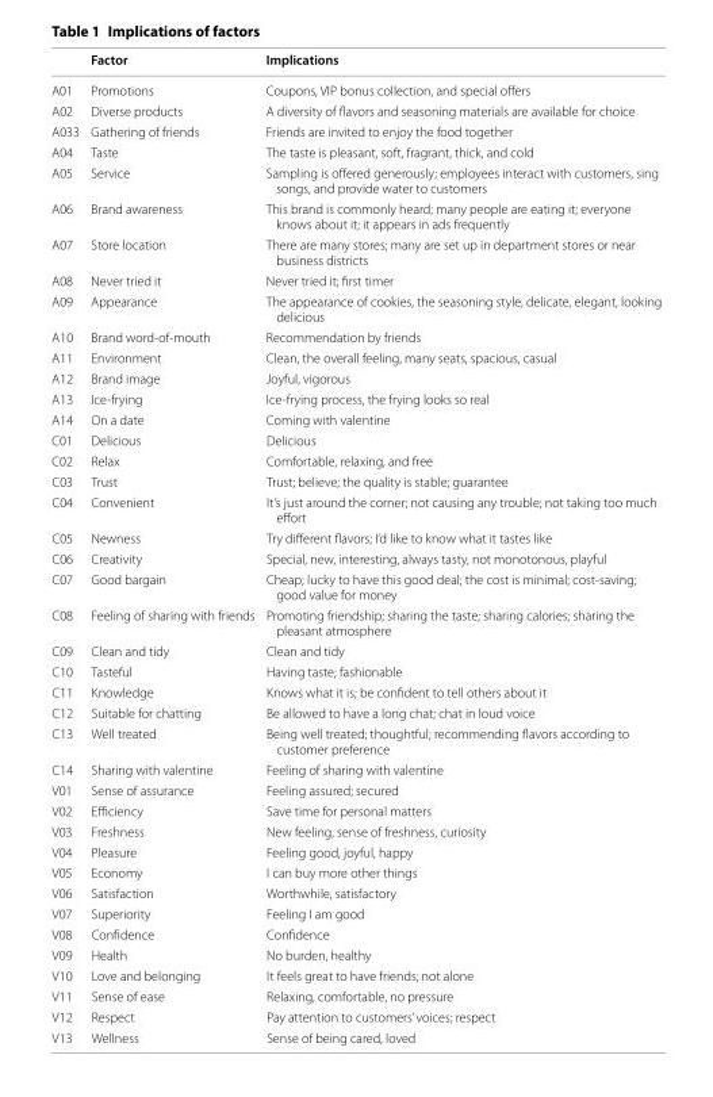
<table><thead><tr><td></td><td>Factor</td><td>Implications</td></tr></thead><tbody><tr><td>A01</td><td>Promotions</td><td>Coupons, VIP bonus collection, and special offers</td></tr><tr><td>A02</td><td>Diverse products</td><td>A diversity of flavors and seasoning materials are available for choice</td></tr><tr><td>A033</td><td>Gathering of friends</td><td>Friends are invited to enjoy the food together</td></tr><tr><td>A04</td><td>Taste</td><td>The taste is pleasant, soft, fragrant, thick, and cold</td></tr><tr><td>A05</td><td>Service</td><td>Sampling is offered generously; employees interact with customers, sing songs, and provide water to customers</td></tr><tr><td>A06</td><td>Brand awareness</td><td>This brand is commonly heard; many people are eating it; everyone knows about it; it appears in ads frequently</td></tr><tr><td>A07</td><td>Store location</td><td>There are many stores; many are set up in department stores or near business districts</td></tr><tr><td>A08</td><td>Never tried it</td><td>Never tried it; first timer</td></tr><tr><td>A09</td><td>Appearance</td><td>The appearance of cookies, the seasoning style, delicate, elegant, looking delicious</td></tr><tr><td>A10</td><td>Brand word‑of‑mouth</td><td>Recommendation by friends</td></tr><tr><td>A11</td><td>Environment</td><td>Clean, the overall feeling, many seats, spacious, casual</td></tr><tr><td>A12</td><td>Brand image</td><td>Joyful, vigorous</td></tr><tr><td>A13</td><td>Ice‑frying</td><td>Ice‑frying process, the frying looks so real</td></tr><tr><td>A14</td><td>On a date</td><td>Coming with valentine</td></tr><tr><td>C01</td><td>Delicious</td><td>Delicious</td></tr><tr><td>C02</td><td>Relax</td><td>Comfortable, relaxing, and free</td></tr><tr><td>C03</td><td>Trust</td><td>Trust; believe; the quality is stable; guarantee</td></tr><tr><td>C04</td><td>Convenient</td><td>It’s just around the corner; not causing any trouble; not taking too much effort</td></tr><tr><td>C05</td><td>Newness</td><td>Try different flavors; I’d like to know what it tastes like</td></tr><tr><td>C06</td><td>Creativity</td><td>Special, new, interesting, always tasty, not monotonous, playful</td></tr><tr><td>C07</td><td>Good bargain</td><td>Cheap; lucky to have this good deal; the cost is minimal; cost‑saving; good value for money</td></tr><tr><td>C08</td><td>Feeling of sharing with friends</td><td>Promoting friendship; sharing the taste; sharing calories; sharing the pleasant atmosphere</td></tr><tr><td>C09</td><td>Clean and tidy</td><td>Clean and tidy</td></tr><tr><td>C10</td><td>Tasteful</td><td>Having taste; fashionable</td></tr><tr><td>C11</td><td>Knowledge</td><td>Knows what it is; be confident to tell others about it</td></tr><tr><td>C12</td><td>Suitable for chatting</td><td>Be allowed to have a long chat; chat in loud voice</td></tr><tr><td>C13</td><td>Well treated</td><td>Being well treated; thoughtful; recommending flavors according to customer preference</td></tr><tr><td>C14</td><td>Sharing with valentine</td><td>Feeling of sharing with valentine</td></tr><tr><td>V01</td><td>Sense of assurance</td><td>Feeling assured; secured</td></tr><tr><td>V02</td><td>Efficiency</td><td>Save time for personal matters</td></tr><tr><td>V03</td><td>Freshness</td><td>New feeling, sense of freshness, curiosity</td></tr><tr><td>V04</td><td>Pleasure</td><td>Feeling good, joyful, happy</td></tr><tr><td>V05</td><td>Economy</td><td>I can buy more other things</td></tr><tr><td>V06</td><td>Satisfaction</td><td>Worthwhile, satisfactory</td></tr><tr><td>V07</td><td>Superiority</td><td>Feeling I am good</td></tr><tr><td>V08</td><td>Confidence</td><td>Confidence</td></tr><tr><td>V09</td><td>Health</td><td>No burden, healthy</td></tr><tr><td>V10</td><td>Love and belonging</td><td>It feels great to have friends; not alone</td></tr><tr><td>V11</td><td>Sense of ease</td><td>Relaxing, comfortable, no pressure</td></tr><tr><td>V12</td><td>Respect</td><td>Pay attention to customers’ voices; respect</td></tr><tr><td>V13</td><td>Wellness</td><td>Sense of being cared, loved</td></tr></tbody></table>